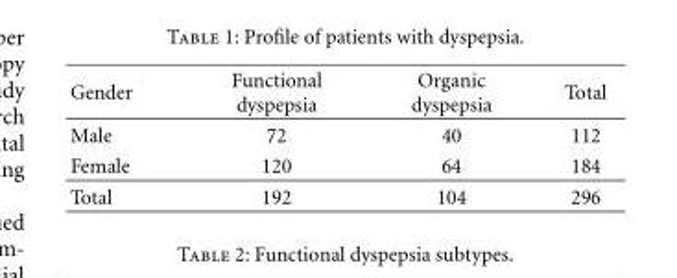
<table><thead><tr><td>Gender</td><td>Functional dyspepsia</td><td>Organic dyspepsia</td><td>Total</td></tr></thead><tbody><tr><td>Male</td><td>72</td><td>40</td><td>112</td></tr><tr><td>Female</td><td>120</td><td>64</td><td>184</td></tr><tr><td>Total</td><td>192</td><td>104</td><td>296</td></tr></tbody></table>